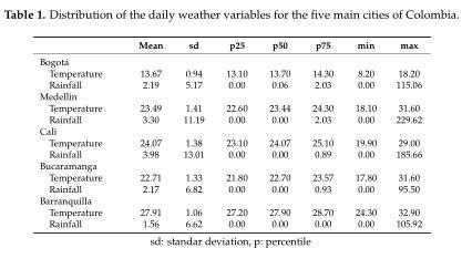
<table><thead><tr><td></td><td>Mean</td><td>sd</td><td>p25</td><td>p50</td><td>p75</td><td>min</td><td>max</td></tr></thead><tbody><tr><td colspan="8">Bogotá</td></tr><tr><td>Temperature</td><td>13.67</td><td>0.94</td><td>13.10</td><td>13.70</td><td>14.30</td><td>8.20</td><td>18.20</td></tr><tr><td>Rainfall</td><td>2.19</td><td>5.17</td><td>0.00</td><td>0.06</td><td>2.03</td><td>0.00</td><td>115.06</td></tr><tr><td colspan="8">Medellin</td></tr><tr><td>Temperature</td><td>23.49</td><td>1.41</td><td>22.60</td><td>23.44</td><td>24.30</td><td>18.10</td><td>31.60</td></tr><tr><td>Rainfall</td><td>3.30</td><td>11.19</td><td>0.00</td><td>0.00</td><td>2.03</td><td>0.00</td><td>229.62</td></tr><tr><td colspan="8">Cali</td></tr><tr><td>Temperature</td><td>24.07</td><td>1.38</td><td>23.10</td><td>24.07</td><td>25.10</td><td>19.90</td><td>29.00</td></tr><tr><td>Rainfall</td><td>3.98</td><td>13.01</td><td>0.00</td><td>0.00</td><td>0.89</td><td>0.00</td><td>185.66</td></tr><tr><td colspan="8">Bucaramanga</td></tr><tr><td>Temperature</td><td>22.71</td><td>1.33</td><td>21.80</td><td>22.70</td><td>23.57</td><td>17.80</td><td>31.60</td></tr><tr><td>Rainfall</td><td>2.17</td><td>6.82</td><td>0.00</td><td>0.00</td><td>0.93</td><td>0.00</td><td>95.50</td></tr><tr><td colspan="8">Barranquilla</td></tr><tr><td>Temperature</td><td>27.91</td><td>1.06</td><td>27.20</td><td>27.90</td><td>28.70</td><td>24.30</td><td>32.90</td></tr><tr><td>Rainfall</td><td>1.56</td><td>6.62</td><td>0.00</td><td>0.00</td><td>0.00</td><td>0.00</td><td>105.92</td></tr></tbody></table>